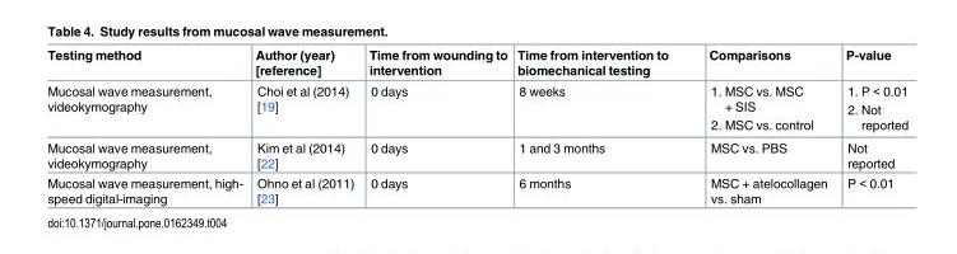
<table><thead><tr><td>Testing method</td><td>Author (year) [reference]</td><td>Time from wounding to intervention</td><td>Time from intervention to biomechanical testing</td><td>Comparisons</td><td>P-value</td></tr></thead><tbody><tr><td>Mucosal wave measurement, videokymography</td><td>Choi et al (2014) [19]</td><td>0 days</td><td>8 weeks</td><td>1. MSC vs. MSC + SIS 2. MSC vs. control</td><td>1. P &lt; 0.01 2. Not reported</td></tr><tr><td>Mucosal wave measurement, videokymography</td><td>Kim et al (2014) [22]</td><td>0 days</td><td>1 and 3 months</td><td>MSC vs. PBS</td><td>Not reported</td></tr><tr><td>Mucosal wave measurement, high- speed digital-imaging</td><td>Ohno et al (2011) [23]</td><td>0 days</td><td>6 months</td><td>MSC + atelocollagen vs. sham</td><td>P &lt; 0.01</td></tr></tbody></table>